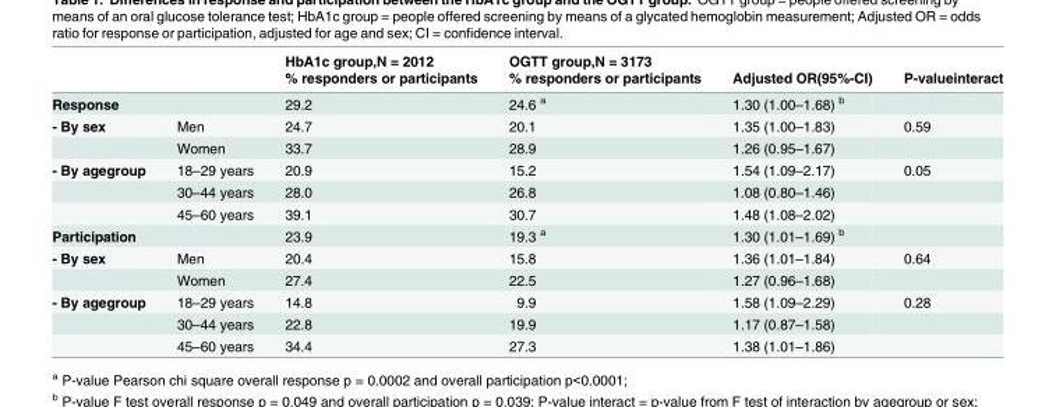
<table><thead><tr><td rowspan="2"></td><td rowspan="2"></td><td rowspan="2">HbA1c group,N = 2012 % responders or participants</td><td rowspan="2">OGTT group,N = 3173 % responders or participants</td><td rowspan="2">Adjusted OR(95%-CI)</td><td rowspan="2">P-valueinteract</td></tr><tr></tr></thead><tbody><tr><td>Response</td><td></td><td>29.2</td><td>24.6 <sup>a</sup></td><td>1.30 (1.00–1.68) <sup>b</sup></td><td></td></tr><tr><td rowspan="2">- By sex</td><td>Men</td><td>24.7</td><td>20.1</td><td>1.35 (1.00–1.83)</td><td>0.59</td></tr><tr><td>Women</td><td>33.7</td><td>28.9</td><td>1.26 (0.95–1.67)</td><td></td></tr><tr><td rowspan="3">- By agegroup</td><td>18–29 years</td><td>20.9</td><td>15.2</td><td>1.54 (1.09–2.17)</td><td>0.05</td></tr><tr><td>30–44 years</td><td>28.0</td><td>26.8</td><td>1.08 (0.80–1.46)</td><td></td></tr><tr><td>45–60 years</td><td>39.1</td><td>30.7</td><td>1.48 (1.08–2.02)</td><td></td></tr><tr><td>Participation</td><td></td><td>23.9</td><td>19.3 <sup>a</sup></td><td>1.30 (1.01–1.69) <sup>b</sup></td><td></td></tr><tr><td rowspan="2">- By sex</td><td>Men</td><td>20.4</td><td>15.8</td><td>1.36 (1.01–1.84)</td><td>0.64</td></tr><tr><td>Women</td><td>27.4</td><td>22.5</td><td>1.27 (0.96–1.68)</td><td></td></tr><tr><td rowspan="3">- By agegroup</td><td>18–29 years</td><td>14.8</td><td>9.9</td><td>1.58 (1.09–2.29)</td><td>0.28</td></tr><tr><td>30–44 years</td><td>22.8</td><td>19.9</td><td>1.17 (0.87–1.58)</td><td></td></tr><tr><td>45–60 years</td><td>34.4</td><td>27.3</td><td>1.38 (1.01–1.86)</td><td></td></tr></tbody></table>